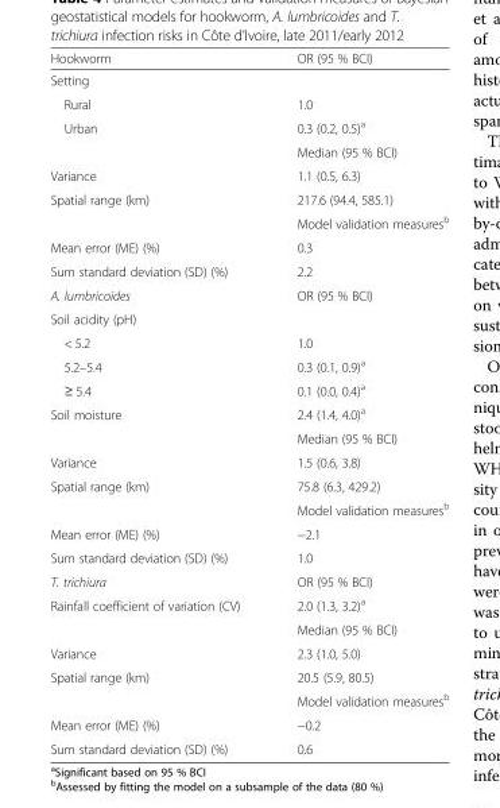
<table><thead><tr><td>Hookworm</td><td>OR (95 % BCI)</td></tr></thead><tbody><tr><td colspan="2">Setting</td></tr><tr><td>Rural</td><td>1.0</td></tr><tr><td rowspan="2">Urban</td><td>0.3 (0.2, 0.5)<sup>a</sup></td></tr><tr><td>Median (95 % BCI)</td></tr><tr><td>Variance</td><td>1.1 (0.5, 6.3)</td></tr><tr><td rowspan="2">Spatial range (km)</td><td>217.6 (94.4, 585.1)</td></tr><tr><td>Model validation measures<sup>b</sup></td></tr><tr><td>Mean error (ME) (%)</td><td>0.3</td></tr><tr><td>Sum standard deviation (SD) (%)</td><td>2.2</td></tr><tr><td>A. lumbricoides</td><td>OR (95 % BCI)</td></tr><tr><td colspan="2">Soil acidity (pH)</td></tr><tr><td>&lt; 5.2</td><td>1.0</td></tr><tr><td>5.2–5.4</td><td>0.3 (0.1, 0.9)<sup>a</sup></td></tr><tr><td>≥ 5.4</td><td>0.1 (0.0, 0.4)<sup>a</sup></td></tr><tr><td rowspan="2">Soil moisture</td><td>2.4 (1.4, 4.0)<sup>a</sup></td></tr><tr><td>Median (95 % BCI)</td></tr><tr><td>Variance</td><td>1.5 (0.6, 3.8)</td></tr><tr><td rowspan="2">Spatial range (km)</td><td>75.8 (6.3, 429.2)</td></tr><tr><td>Model validation measures<sup>b</sup></td></tr><tr><td>Mean error (ME) (%)</td><td>−2.1</td></tr><tr><td>Sum standard deviation (SD) (%)</td><td>1.0</td></tr><tr><td>T. trichiura</td><td>OR (95 % BCI)</td></tr><tr><td rowspan="2">Rainfall coefficient of variation (CV)</td><td>2.0 (1.3, 3.2)<sup>a</sup></td></tr><tr><td>Median (95 % BCI)</td></tr><tr><td>Variance</td><td>2.3 (1.0, 5.0)</td></tr><tr><td rowspan="2">Spatial range (km)</td><td>20.5 (5.9, 80.5)</td></tr><tr><td>Model validation measures<sup>b</sup></td></tr><tr><td>Mean error (ME) (%)</td><td>−0.2</td></tr><tr><td>Sum standard deviation (SD) (%)</td><td>0.6</td></tr></tbody></table>